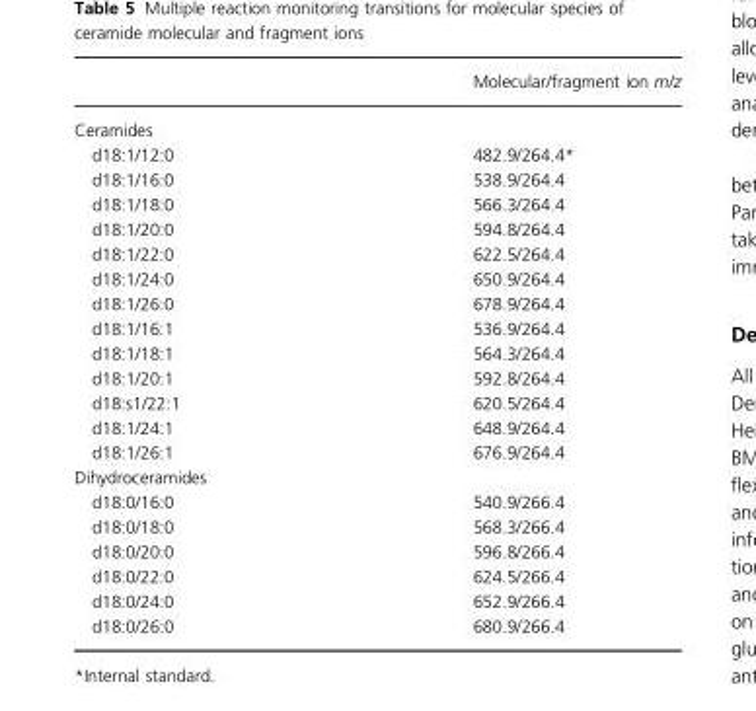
<table><thead><tr><td></td><td>Molecular/fragment ion m/z</td></tr></thead><tbody><tr><td colspan="2">Ceramides</td></tr><tr><td>d18:1/12:0</td><td>482.9/264.4*</td></tr><tr><td>d18:1/16:0</td><td>538.9/264.4</td></tr><tr><td>d18:1/18:0</td><td>566.3/264.4</td></tr><tr><td>d18:1/20:0</td><td>594.8/264.4</td></tr><tr><td>d18:1/22:0</td><td>622.5/264.4</td></tr><tr><td>d18:1/24:0</td><td>650.9/264.4</td></tr><tr><td>d18:1/26:0</td><td>678.9/264.4</td></tr><tr><td>d18:1/16:1</td><td>536.9/264.4</td></tr><tr><td>d18:1/18:1</td><td>564.3/264.4</td></tr><tr><td>d18:1/20:1</td><td>592.8/264.4</td></tr><tr><td>d18:s1/22:1</td><td>620.5/264.4</td></tr><tr><td>d18:1/24:1</td><td>648.9/264.4</td></tr><tr><td>d18:1/26:1</td><td>676.9/264.4</td></tr><tr><td colspan="2">Dihydroceramides</td></tr><tr><td>d18:0/16:0</td><td>540.9/266.4</td></tr><tr><td>d18:0/18:0</td><td>568.3/266.4</td></tr><tr><td>d18:0/20:0</td><td>596.8/266.4</td></tr><tr><td>d18:0/22:0</td><td>624.5/266.4</td></tr><tr><td>d18:0/24:0</td><td>652.9/266.4</td></tr><tr><td>d18:0/26:0</td><td>680.9/266.4</td></tr></tbody></table>